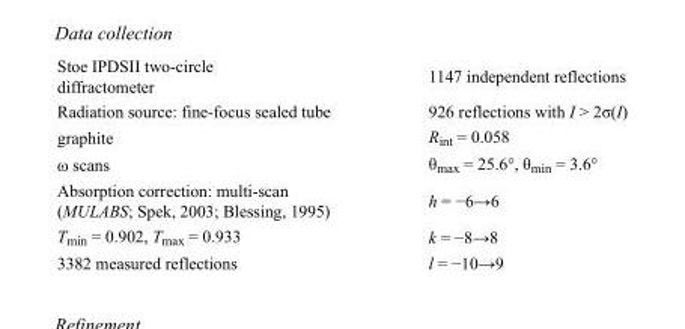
<table><tbody><tr><td>Stoe IPDSII two-circle diffractometer</td><td>1147 independent reflections</td></tr><tr><td>Radiation source: fine-focus sealed tube</td><td>926 reflections with I &gt; 2σ(I)</td></tr><tr><td>graphite</td><td>R<sub>int</sub> = 0.058</td></tr><tr><td>ω scans</td><td>θ<sub>max</sub> = 25.6°, θ<sub>min</sub> = 3.6°</td></tr><tr><td>Absorption correction: multi-scan (MULABS; Spek, 2003; Blessing, 1995)</td><td>h = −6→6</td></tr><tr><td>T<sub>min</sub> = 0.902, T<sub>max</sub> = 0.933</td><td>k = −8→8</td></tr><tr><td>3382 measured reflections</td><td>l = −10→9</td></tr></tbody></table>